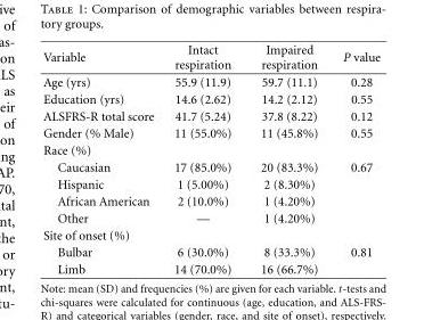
<table><thead><tr><td>Variable</td><td>Intact respiration</td><td>Impaired respiration</td><td>P value</td></tr></thead><tbody><tr><td>Age (yrs)</td><td>55.9 (11.9)</td><td>59.7 (11.1)</td><td>0.28</td></tr><tr><td>Education (yrs)</td><td>14.6 (2.62)</td><td>14.2 (2.12)</td><td>0.55</td></tr><tr><td>ALSFRS-R total score</td><td>41.7 (5.24)</td><td>37.8 (8.22)</td><td>0.12</td></tr><tr><td>Gender (% Male)</td><td>11 (55.0%)</td><td>11 (45.8%)</td><td>0.55</td></tr><tr><td colspan="4">Race (%)</td></tr><tr><td>Caucasian</td><td>17 (85.0%)</td><td>20 (83.3%)</td><td>0.67</td></tr><tr><td>Hispanic</td><td>1 (5.00%)</td><td>2 (8.30%)</td><td></td></tr><tr><td>African American</td><td>2 (10.0%)</td><td>1 (4.20%)</td><td></td></tr><tr><td>Other</td><td>—</td><td>1 (4.20%)</td><td></td></tr><tr><td colspan="4">Site of onset (%)</td></tr><tr><td>Bulbar</td><td>6 (30.0%)</td><td>8 (33.3%)</td><td>0.81</td></tr><tr><td>Limb</td><td>14 (70.0%)</td><td>16 (66.7%)</td><td></td></tr></tbody></table>